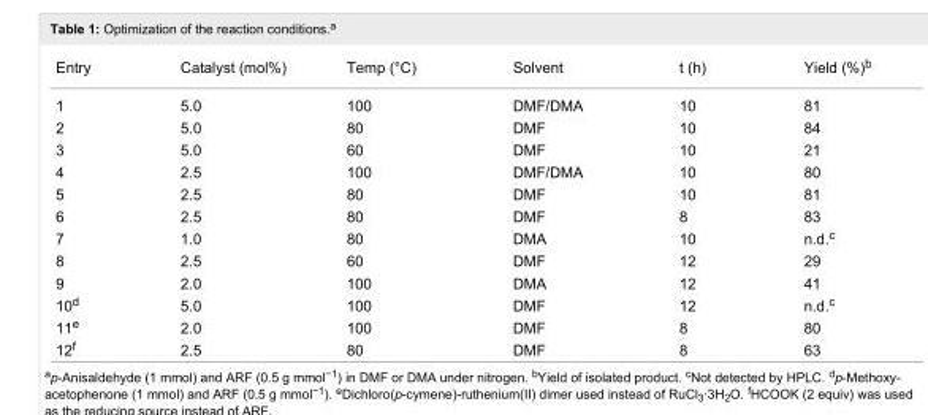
<table><tbody><tr><td>Entry</td><td>Catalyst (mol%)</td><td>Temp (°C)</td><td>Solvent</td><td>t (h)</td><td>Yield (%)<sup>b</sup></td></tr><tr><td>1</td><td>5.0</td><td>100</td><td>DMF/DMA</td><td>10</td><td>81</td></tr><tr><td>2</td><td>5.0</td><td>80</td><td>DMF</td><td>10</td><td>84</td></tr><tr><td>3</td><td>5.0</td><td>60</td><td>DMF</td><td>10</td><td>21</td></tr><tr><td>4</td><td>2.5</td><td>100</td><td>DMF/DMA</td><td>10</td><td>80</td></tr><tr><td>5</td><td>2.5</td><td>80</td><td>DMF</td><td>10</td><td>81</td></tr><tr><td>6</td><td>2.5</td><td>80</td><td>DMF</td><td>8</td><td>83</td></tr><tr><td>7</td><td>1.0</td><td>80</td><td>DMA</td><td>10</td><td>n.d.<sup>c</sup></td></tr><tr><td>8</td><td>2.5</td><td>60</td><td>DMF</td><td>12</td><td>29</td></tr><tr><td>9</td><td>2.0</td><td>100</td><td>DMA</td><td>12</td><td>41</td></tr><tr><td>10<sup>d</sup></td><td>5.0</td><td>100</td><td>DMF</td><td>12</td><td>n.d.<sup>c</sup></td></tr><tr><td>11<sup>e</sup></td><td>2.0</td><td>100</td><td>DMF</td><td>8</td><td>80</td></tr><tr><td>12<sup>f</sup></td><td>2.5</td><td>80</td><td>DMF</td><td>8</td><td>63</td></tr></tbody></table>